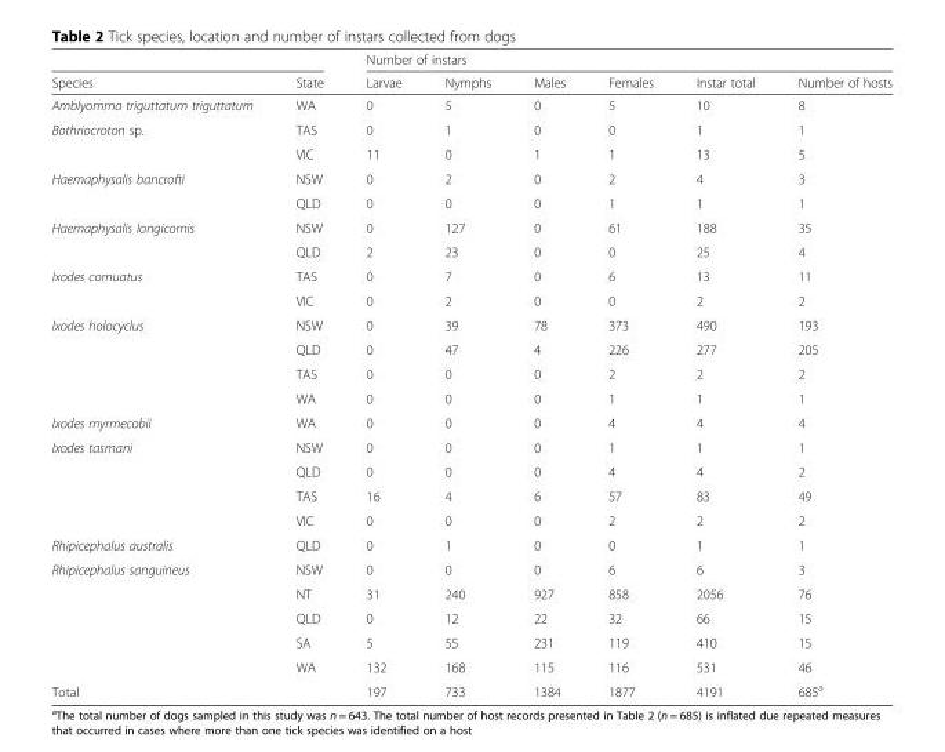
<table><thead><tr><td rowspan="2">Species</td><td rowspan="2">State</td><td colspan="6">Number of instars</td></tr><tr><td>Larvae</td><td>Nymphs</td><td>Males</td><td>Females</td><td>Instar total</td><td>Number of hosts</td></tr></thead><tbody><tr><td>Amblyomma triguttatum triguttatum</td><td>WA</td><td>0</td><td>5</td><td>0</td><td>5</td><td>10</td><td>8</td></tr><tr><td rowspan="2">Bothriocroton sp.</td><td>TAS</td><td>0</td><td>1</td><td>0</td><td>0</td><td>1</td><td>1</td></tr><tr><td>VIC</td><td>11</td><td>0</td><td>1</td><td>1</td><td>13</td><td>5</td></tr><tr><td rowspan="2">Haemaphysalis bancrofti</td><td>NSW</td><td>0</td><td>2</td><td>0</td><td>2</td><td>4</td><td>3</td></tr><tr><td>QLD</td><td>0</td><td>0</td><td>0</td><td>1</td><td>1</td><td>1</td></tr><tr><td rowspan="2">Haemaphysalis longicornis</td><td>NSW</td><td>0</td><td>127</td><td>0</td><td>61</td><td>188</td><td>35</td></tr><tr><td>QLD</td><td>2</td><td>23</td><td>0</td><td>0</td><td>25</td><td>4</td></tr><tr><td rowspan="2">Ixodes cornuatus</td><td>TAS</td><td>0</td><td>7</td><td>0</td><td>6</td><td>13</td><td>11</td></tr><tr><td>VIC</td><td>0</td><td>2</td><td>0</td><td>0</td><td>2</td><td>2</td></tr><tr><td rowspan="4">Ixodes holocyclus</td><td>NSW</td><td>0</td><td>39</td><td>78</td><td>373</td><td>490</td><td>193</td></tr><tr><td>QLD</td><td>0</td><td>47</td><td>4</td><td>226</td><td>277</td><td>205</td></tr><tr><td>TAS</td><td>0</td><td>0</td><td>0</td><td>2</td><td>2</td><td>2</td></tr><tr><td>WA</td><td>0</td><td>0</td><td>0</td><td>1</td><td>1</td><td>1</td></tr><tr><td>Ixodes myrmecobii</td><td>WA</td><td>0</td><td>0</td><td>0</td><td>4</td><td>4</td><td>4</td></tr><tr><td rowspan="4">Ixodes tasmani</td><td>NSW</td><td>0</td><td>0</td><td>0</td><td>1</td><td>1</td><td>1</td></tr><tr><td>QLD</td><td>0</td><td>0</td><td>0</td><td>4</td><td>4</td><td>2</td></tr><tr><td>TAS</td><td>16</td><td>4</td><td>6</td><td>57</td><td>83</td><td>49</td></tr><tr><td>VIC</td><td>0</td><td>0</td><td>0</td><td>2</td><td>2</td><td>2</td></tr><tr><td>Rhipicephalus australis</td><td>QLD</td><td>0</td><td>1</td><td>0</td><td>0</td><td>1</td><td>1</td></tr><tr><td rowspan="5">Rhipicephalus sanguineus</td><td>NSW</td><td>0</td><td>0</td><td>0</td><td>6</td><td>6</td><td>3</td></tr><tr><td>NT</td><td>31</td><td>240</td><td>927</td><td>858</td><td>2056</td><td>76</td></tr><tr><td>QLD</td><td>0</td><td>12</td><td>22</td><td>32</td><td>66</td><td>15</td></tr><tr><td>SA</td><td>5</td><td>55</td><td>231</td><td>119</td><td>410</td><td>15</td></tr><tr><td>WA</td><td>132</td><td>168</td><td>115</td><td>116</td><td>531</td><td>46</td></tr><tr><td>Total</td><td></td><td>197</td><td>733</td><td>1384</td><td>1877</td><td>4191</td><td>685<sup>a</sup></td></tr></tbody></table>